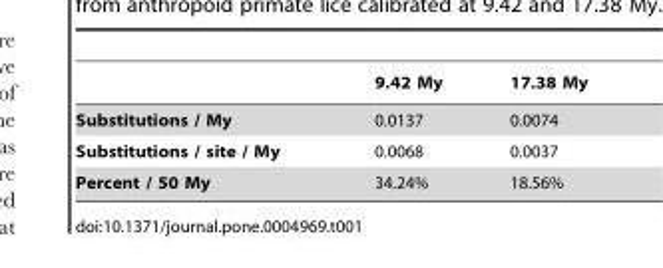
<table><thead><tr><td></td><td>9.42 My</td><td>17.38 My</td></tr></thead><tbody><tr><td>Substitutions / My</td><td>0.0137</td><td>0.0074</td></tr><tr><td>Substitutions / site / My</td><td>0.0068</td><td>0.0037</td></tr><tr><td>Percent / 50 My</td><td>34.24%</td><td>18.56%</td></tr></tbody></table>